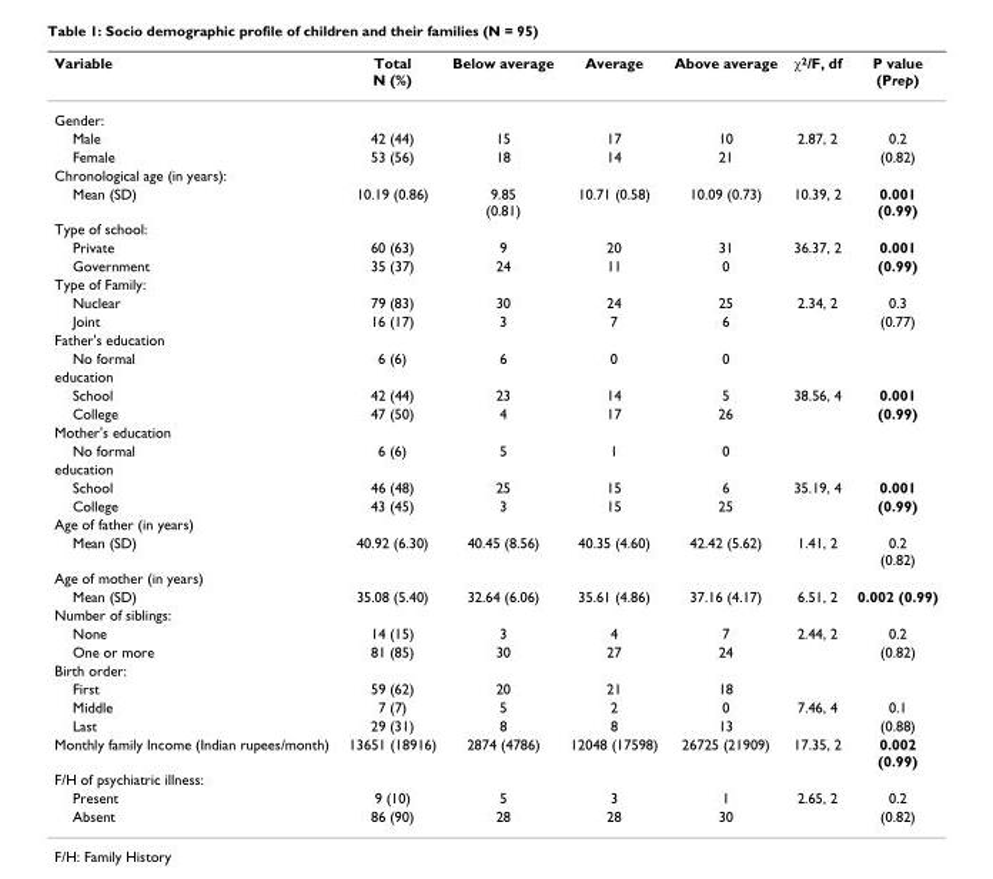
<table><thead><tr><td>Variable</td><td>Total N (%)</td><td>Below average</td><td>Average</td><td>Above average</td><td>χ<sup>2</sup>/F, df</td><td>P value (Prep)</td></tr></thead><tbody><tr><td colspan="7">Gender:</td></tr><tr><td>Male</td><td>42 (44)</td><td>15</td><td>17</td><td>10</td><td>2.87, 2</td><td>0.2</td></tr><tr><td>Female</td><td>53 (56)</td><td>18</td><td>14</td><td>21</td><td></td><td>(0.82)</td></tr><tr><td colspan="7">Chronological age (in years):</td></tr><tr><td>Mean (SD)</td><td>10.19 (0.86)</td><td>9.85 (0.81)</td><td>10.71 (0.58)</td><td>10.09 (0.73)</td><td>10.39, 2</td><td>0.001 (0.99)</td></tr><tr><td colspan="7">Type of school:</td></tr><tr><td>Private</td><td>60 (63)</td><td>9</td><td>20</td><td>31</td><td>36.37, 2</td><td>0.001</td></tr><tr><td>Government</td><td>35 (37)</td><td>24</td><td>11</td><td>0</td><td></td><td>(0.99)</td></tr><tr><td colspan="7">Type of Family:</td></tr><tr><td>Nuclear</td><td>79 (83)</td><td>30</td><td>24</td><td>25</td><td>2.34, 2</td><td>0.3</td></tr><tr><td>Joint</td><td>16 (17)</td><td>3</td><td>7</td><td>6</td><td></td><td>(0.77)</td></tr><tr><td colspan="7">Father&#x27;s education</td></tr><tr><td>No formal</td><td>6 (6)</td><td>6</td><td>0</td><td>0</td><td></td><td></td></tr><tr><td colspan="7">education</td></tr><tr><td>School</td><td>42 (44)</td><td>23</td><td>14</td><td>5</td><td>38.56, 4</td><td>0.001</td></tr><tr><td>College</td><td>47 (50)</td><td>4</td><td>17</td><td>26</td><td></td><td>(0.99)</td></tr><tr><td colspan="7">Mother&#x27;s education</td></tr><tr><td>No formal</td><td>6 (6)</td><td>5</td><td>1</td><td>0</td><td></td><td></td></tr><tr><td colspan="7">education</td></tr><tr><td>School</td><td>46 (48)</td><td>25</td><td>15</td><td>6</td><td>35.19, 4</td><td>0.001</td></tr><tr><td>College</td><td>43 (45)</td><td>3</td><td>15</td><td>25</td><td></td><td>(0.99)</td></tr><tr><td colspan="7">Age of father (in years)</td></tr><tr><td>Mean (SD)</td><td>40.92 (6.30)</td><td>40.45 (8.56)</td><td>40.35 (4.60)</td><td>42.42 (5.62)</td><td>1.41, 2</td><td>0.2 (0.82)</td></tr><tr><td colspan="7">Age of mother (in years)</td></tr><tr><td>Mean (SD)</td><td>35.08 (5.40)</td><td>32.64 (6.06)</td><td>35.61 (4.86)</td><td>37.16 (4.17)</td><td>6.51, 2</td><td>0.002 (0.99)</td></tr><tr><td colspan="7">Number of siblings:</td></tr><tr><td>None</td><td>14 (15)</td><td>3</td><td>4</td><td>7</td><td>2.44, 2</td><td>0.2</td></tr><tr><td>One or more</td><td>81 (85)</td><td>30</td><td>27</td><td>24</td><td></td><td>(0.82)</td></tr><tr><td colspan="7">Birth order:</td></tr><tr><td>First</td><td>59 (62)</td><td>20</td><td>21</td><td>18</td><td></td><td></td></tr><tr><td>Middle</td><td>7 (7)</td><td>5</td><td>2</td><td>0</td><td>7.46, 4</td><td>0.1</td></tr><tr><td>Last</td><td>29 (31)</td><td>8</td><td>8</td><td>13</td><td></td><td>(0.88)</td></tr><tr><td>Monthly family Income (Indian rupees/month)</td><td>13651 (18916)</td><td>2874 (4786)</td><td>12048 (17598)</td><td>26725 (21909)</td><td>17.35, 2</td><td>0.002 (0.99)</td></tr><tr><td colspan="7">F/H of psychiatric illness:</td></tr><tr><td>Present</td><td>9 (10)</td><td>5</td><td>3</td><td>1</td><td>2.65, 2</td><td>0.2</td></tr><tr><td>Absent</td><td>86 (90)</td><td>28</td><td>28</td><td>30</td><td></td><td>(0.82)</td></tr></tbody></table>